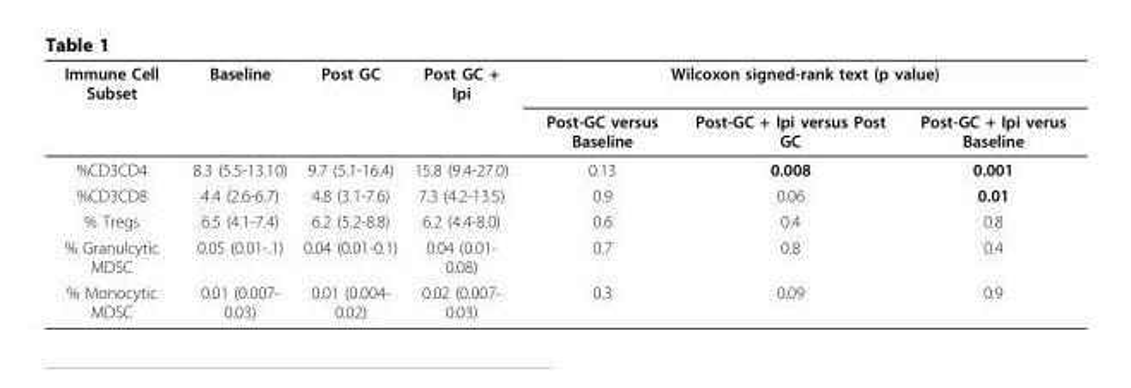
<table><thead><tr><td rowspan="2">Immune Cell Subset</td><td rowspan="2">Baseline</td><td rowspan="2">Post GC</td><td rowspan="2">Post GC + Ipi</td><td colspan="3">Wilcoxon signed-rank text (p value)</td></tr><tr><td>Post-GC versus Baseline</td><td>Post-GC + Ipi versus Post GC</td><td>Post-GC + Ipi verus Baseline</td></tr></thead><tbody><tr><td>%CD3CD4</td><td>8.3 (5.5-13.10)</td><td>9.7 (5.1-16.4)</td><td>15.8 (9.4-27.0)</td><td>0.13</td><td>0.008</td><td>0.001</td></tr><tr><td>%CD3CD8</td><td>4.4 (2.6-6.7)</td><td>4.8 (3.1-7.6)</td><td>7.3 (4.2-13.5)</td><td>0.9</td><td>0.06</td><td>0.01</td></tr><tr><td>% Tregs</td><td>6.5 (4.1-7.4)</td><td>6.2 (5.2-8.8)</td><td>6.2 (4.4-8.0)</td><td>0.6</td><td>0.4</td><td>0.8</td></tr><tr><td>% Granulcytic MDSC</td><td>0.05 (0.01-.1)</td><td>0.04 (0.01-0.1)</td><td>0.04 (0.01- 0.08)</td><td>0.7</td><td>0.8</td><td>0.4</td></tr><tr><td>% Monocytic MDSC</td><td>0.01 (0.007- 0.03)</td><td>0.01 (0.004- 0.02)</td><td>0.02 (0.007- 0.03)</td><td>0.3</td><td>0.09</td><td>0.9</td></tr></tbody></table>